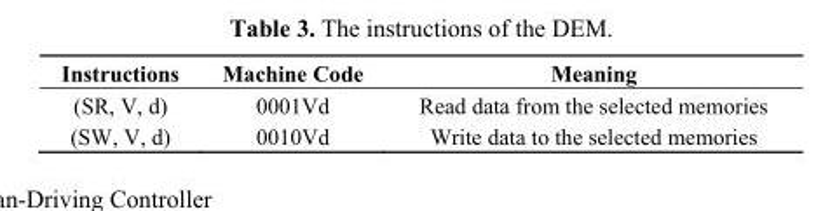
<table><thead><tr><td>Instructions</td><td>Machine Code</td><td>Meaning</td></tr></thead><tbody><tr><td>(SR, V, d)</td><td>0001Vd</td><td>Read data from the selected memories</td></tr><tr><td>(SW, V, d)</td><td>0010Vd</td><td>Write data to the selected memories</td></tr></tbody></table>